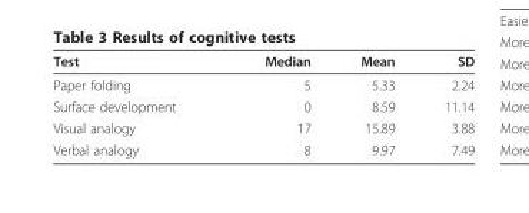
<table><thead><tr><td>Test</td><td>Median</td><td>Mean</td><td>SD</td></tr></thead><tbody><tr><td>Paper folding</td><td>5</td><td>5.33</td><td>2.24</td></tr><tr><td>Surface development</td><td>0</td><td>8.59</td><td>11.14</td></tr><tr><td>Visual analogy</td><td>17</td><td>15.89</td><td>3.88</td></tr><tr><td>Verbal analogy</td><td>8</td><td>9.97</td><td>7.49</td></tr></tbody></table>